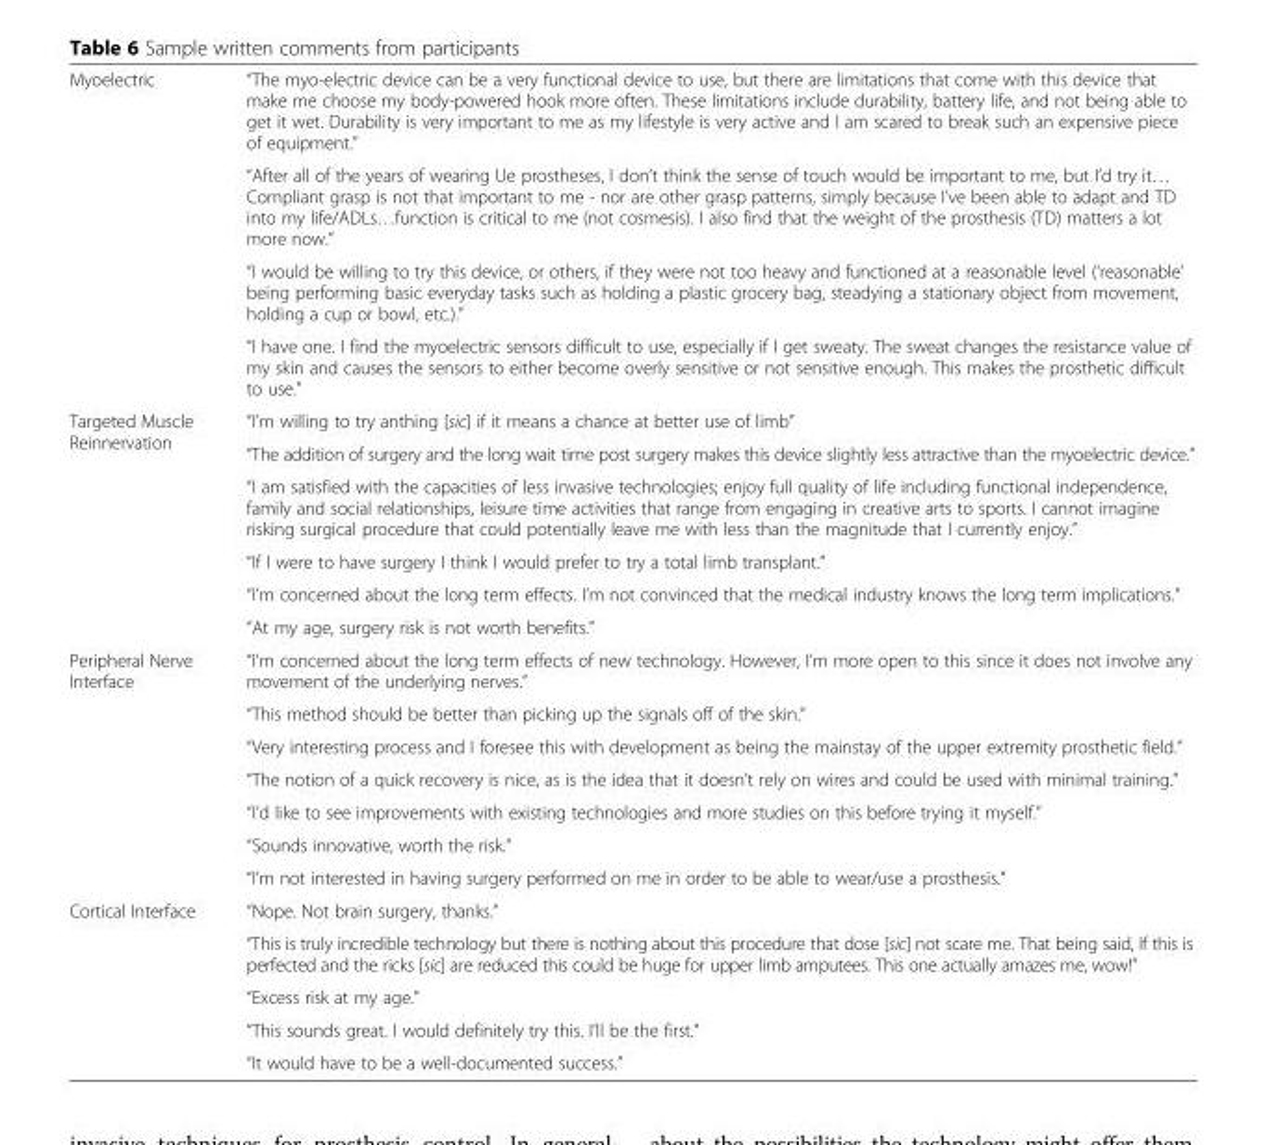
<table><tbody><tr><td rowspan="4">Myoelectric</td><td>“The myo-electric device can be a very functional device to use, but there are limitations that come with this device that make me choose my body-powered hook more often. These limitations include durability, battery life, and not being able to get it wet. Durability is very important to me as my lifestyle is very active and I am scared to break such an expensive piece of equipment.”</td></tr><tr><td>“After all of the years of wearing Ue prostheses, I don’t think the sense of touch would be important to me, but I’d try it… Compliant grasp is not that important to me - nor are other grasp patterns, simply because I’ve been able to adapt and TD into my life/ADLs…function is critical to me (not cosmesis). I also find that the weight of the prosthesis (TD) matters a lot more now.”</td></tr><tr><td>“I would be willing to try this device, or others, if they were not too heavy and functioned at a reasonable level (‘reasonable’ being performing basic everyday tasks such as holding a plastic grocery bag, steadying a stationary object from movement, holding a cup or bowl, etc.).”</td></tr><tr><td>“I have one. I find the myoelectric sensors difficult to use, especially if I get sweaty. The sweat changes the resistance value of my skin and causes the sensors to either become overly sensitive or not sensitive enough. This makes the prosthetic difficult to use.”</td></tr><tr><td rowspan="6">Targeted Muscle Reinnervation</td><td>“I’m willing to try anthing [sic] if it means a chance at better use of limb”</td></tr><tr><td>“The addition of surgery and the long wait time post surgery makes this device slightly less attractive than the myoelectric device.”</td></tr><tr><td>“I am satisfied with the capacities of less invasive technologies; enjoy full quality of life including functional independence, family and social relationships, leisure time activities that range from engaging in creative arts to sports. I cannot imagine risking surgical procedure that could potentially leave me with less than the magnitude that I currently enjoy.”</td></tr><tr><td>“If I were to have surgery I think I would prefer to try a total limb transplant.”</td></tr><tr><td>“I’m concerned about the long term effects. I’m not convinced that the medical industry knows the long term implications.”</td></tr><tr><td>“At my age, surgery risk is not worth benefits.”</td></tr><tr><td rowspan="7">Peripheral Nerve Interface</td><td>“I’m concerned about the long term effects of new technology. However, I’m more open to this since it does not involve any movement of the underlying nerves.”</td></tr><tr><td>“This method should be better than picking up the signals off of the skin.”</td></tr><tr><td>“Very interesting process and I foresee this with development as being the mainstay of the upper extremity prosthetic field.”</td></tr><tr><td>“The notion of a quick recovery is nice, as is the idea that it doesn’t rely on wires and could be used with minimal training.”</td></tr><tr><td>“I’d like to see improvements with existing technologies and more studies on this before trying it myself.”</td></tr><tr><td>“Sounds innovative, worth the risk.”</td></tr><tr><td>“I’m not interested in having surgery performed on me in order to be able to wear/use a prosthesis.”</td></tr><tr><td rowspan="5">Cortical Interface</td><td>“Nope. Not brain surgery, thanks.”</td></tr><tr><td>“This is truly incredible technology but there is nothing about this procedure that dose [sic] not scare me. That being said, If this is perfected and the ricks [sic] are reduced this could be huge for upper limb amputees. This one actually amazes me, wow!”</td></tr><tr><td>“Excess risk at my age.”</td></tr><tr><td>“This sounds great. I would definitely try this. I’ll be the first.”</td></tr><tr><td>“It would have to be a well-documented success.”</td></tr></tbody></table>